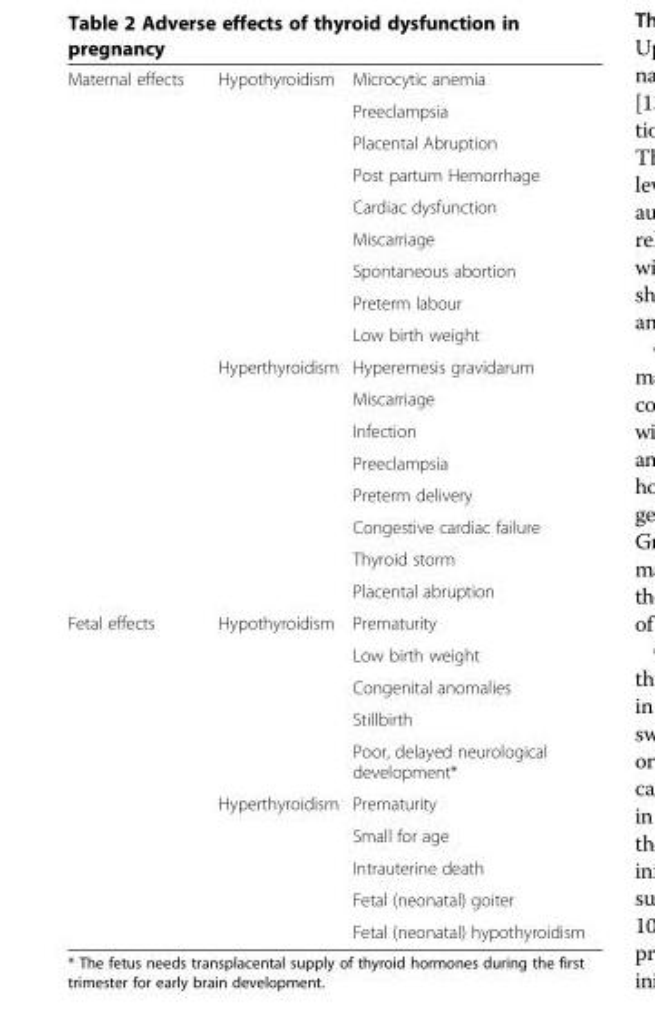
<table><tbody><tr><td rowspan="17">Maternal effects</td><td rowspan="9">Hypothyroidism</td><td>Microcytic anemia</td></tr><tr><td>Preeclampsia</td></tr><tr><td>Placental Abruption</td></tr><tr><td>Post partum Hemorrhage</td></tr><tr><td>Cardiac dysfunction</td></tr><tr><td>Miscarriage</td></tr><tr><td>Spontaneous abortion</td></tr><tr><td>Preterm labour</td></tr><tr><td>Low birth weight</td></tr><tr><td rowspan="8">Hyperthyroidism</td><td>Hyperemesis gravidarum</td></tr><tr><td>Miscarriage</td></tr><tr><td>Infection</td></tr><tr><td>Preeclampsia</td></tr><tr><td>Preterm delivery</td></tr><tr><td>Congestive cardiac failure</td></tr><tr><td>Thyroid storm</td></tr><tr><td>Placental abruption</td></tr><tr><td rowspan="10">Fetal effects</td><td rowspan="5">Hypothyroidism</td><td>Prematurity</td></tr><tr><td>Low birth weight</td></tr><tr><td>Congenital anomalies</td></tr><tr><td>Stillbirth</td></tr><tr><td>Poor, delayed neurological development*</td></tr><tr><td rowspan="4">Hyperthyroidism</td><td>Prematurity</td></tr><tr><td>Small for age</td></tr><tr><td>Intrauterine death</td></tr><tr><td>Fetal (neonatal) goiter</td></tr><tr><td></td><td>Fetal (neonatal) hypothyroidism</td></tr></tbody></table>